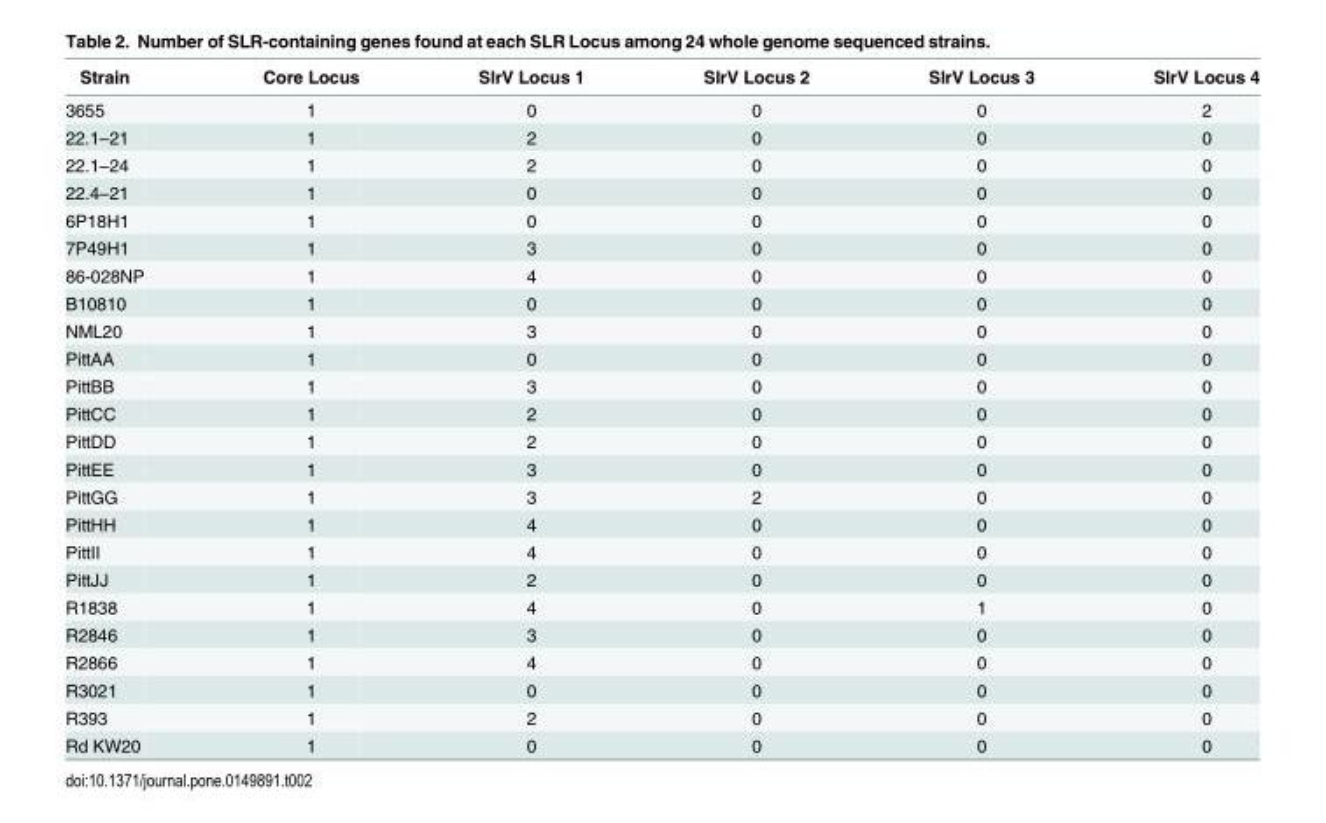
<table><thead><tr><td>Strain</td><td>Core Locus</td><td>SlrV Locus 1</td><td>SlrV Locus 2</td><td>SlrV Locus 3</td><td>SlrV Locus 4</td></tr></thead><tbody><tr><td>3655</td><td>1</td><td>0</td><td>0</td><td>0</td><td>2</td></tr><tr><td>22.1–21</td><td>1</td><td>2</td><td>0</td><td>0</td><td>0</td></tr><tr><td>22.1–24</td><td>1</td><td>2</td><td>0</td><td>0</td><td>0</td></tr><tr><td>22.4–21</td><td>1</td><td>0</td><td>0</td><td>0</td><td>0</td></tr><tr><td>6P18H1</td><td>1</td><td>0</td><td>0</td><td>0</td><td>0</td></tr><tr><td>7P49H1</td><td>1</td><td>3</td><td>0</td><td>0</td><td>0</td></tr><tr><td>86-028NP</td><td>1</td><td>4</td><td>0</td><td>0</td><td>0</td></tr><tr><td>B10810</td><td>1</td><td>0</td><td>0</td><td>0</td><td>0</td></tr><tr><td>NML20</td><td>1</td><td>3</td><td>0</td><td>0</td><td>0</td></tr><tr><td>PittAA</td><td>1</td><td>0</td><td>0</td><td>0</td><td>0</td></tr><tr><td>PittBB</td><td>1</td><td>3</td><td>0</td><td>0</td><td>0</td></tr><tr><td>PittCC</td><td>1</td><td>2</td><td>0</td><td>0</td><td>0</td></tr><tr><td>PittDD</td><td>1</td><td>2</td><td>0</td><td>0</td><td>0</td></tr><tr><td>PittEE</td><td>1</td><td>3</td><td>0</td><td>0</td><td>0</td></tr><tr><td>PittGG</td><td>1</td><td>3</td><td>2</td><td>0</td><td>0</td></tr><tr><td>PittHH</td><td>1</td><td>4</td><td>0</td><td>0</td><td>0</td></tr><tr><td>PittII</td><td>1</td><td>4</td><td>0</td><td>0</td><td>0</td></tr><tr><td>PittJJ</td><td>1</td><td>2</td><td>0</td><td>0</td><td>0</td></tr><tr><td>R1838</td><td>1</td><td>4</td><td>0</td><td>1</td><td>0</td></tr><tr><td>R2846</td><td>1</td><td>3</td><td>0</td><td>0</td><td>0</td></tr><tr><td>R2866</td><td>1</td><td>4</td><td>0</td><td>0</td><td>0</td></tr><tr><td>R3021</td><td>1</td><td>0</td><td>0</td><td>0</td><td>0</td></tr><tr><td>R393</td><td>1</td><td>2</td><td>0</td><td>0</td><td>0</td></tr><tr><td>Rd KW20</td><td>1</td><td>0</td><td>0</td><td>0</td><td>0</td></tr></tbody></table>